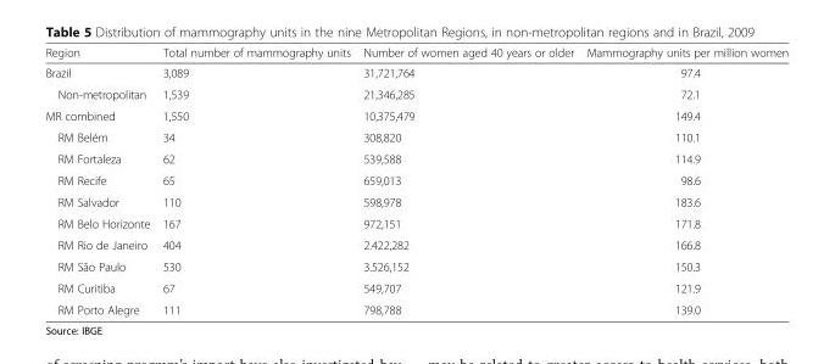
<table><thead><tr><td>Region</td><td>Total number of mammography units</td><td>Number of women aged 40 years or older</td><td>Mammography units per million women</td></tr></thead><tbody><tr><td>Brazil</td><td>3,089</td><td>31,721,764</td><td>97.4</td></tr><tr><td>Non-metropolitan</td><td>1,539</td><td>21,346,285</td><td>72.1</td></tr><tr><td>MR combined</td><td>1,550</td><td>10,375,479</td><td>149.4</td></tr><tr><td>RM Belém</td><td>34</td><td>308,820</td><td>110.1</td></tr><tr><td>RM Fortaleza</td><td>62</td><td>539,588</td><td>114.9</td></tr><tr><td>RM Recife</td><td>65</td><td>659,013</td><td>98.6</td></tr><tr><td>RM Salvador</td><td>110</td><td>598,978</td><td>183.6</td></tr><tr><td>RM Belo Horizonte</td><td>167</td><td>972,151</td><td>171.8</td></tr><tr><td>RM Rio de Janeiro</td><td>404</td><td>2.422,282</td><td>166.8</td></tr><tr><td>RM São Paulo</td><td>530</td><td>3.526,152</td><td>150.3</td></tr><tr><td>RM Curitiba</td><td>67</td><td>549,707</td><td>121.9</td></tr><tr><td>RM Porto Alegre</td><td>111</td><td>798,788</td><td>139.0</td></tr></tbody></table>